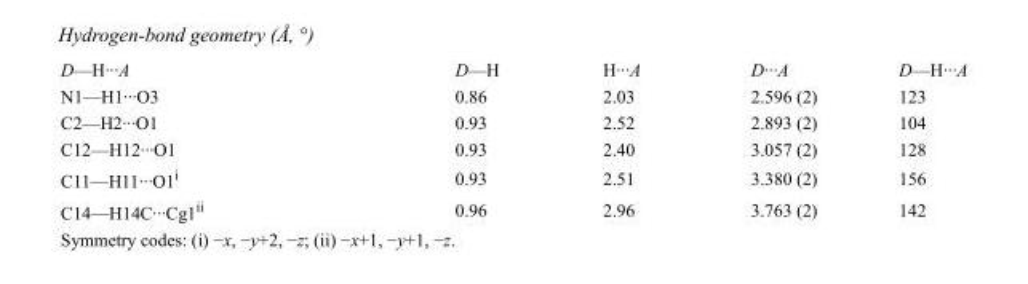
<table><tbody><tr><td>D—H···A</td><td>D—H</td><td>H···A</td><td>D···A</td><td>D—H···A</td></tr><tr><td>N1—H1···O3</td><td>0.86</td><td>2.03</td><td>2.596 (2)</td><td>123</td></tr><tr><td>C2—H2···O1</td><td>0.93</td><td>2.52</td><td>2.893 (2)</td><td>104</td></tr><tr><td>C12—H12···O1</td><td>0.93</td><td>2.40</td><td>3.057 (2)</td><td>128</td></tr><tr><td>C11—H11···O1<sup>i</sup></td><td>0.93</td><td>2.51</td><td>3.380 (2)</td><td>156</td></tr><tr><td>C14—H14C···Cg1<sup>ii</sup></td><td>0.96</td><td>2.96</td><td>3.763 (2)</td><td>142</td></tr></tbody></table>